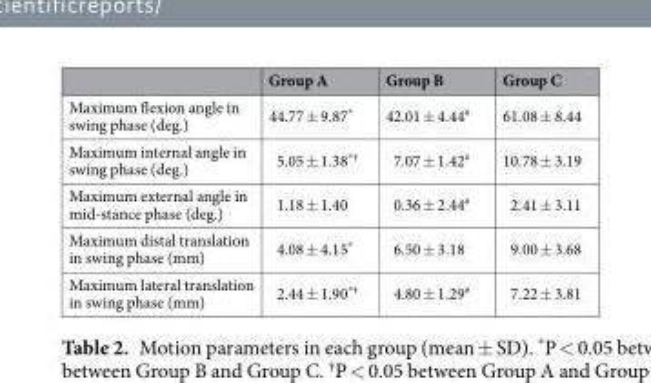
<table><thead><tr><td></td><td>Group A</td><td>Group B</td><td>Group C</td></tr></thead><tbody><tr><td>Maximum flexion angle in swing phase (deg.)</td><td>44.77 ± 9.87*</td><td>42.01 ± 4.44<sup>#</sup></td><td>61.08 ± 8.44</td></tr><tr><td>Maximum internal angle in swing phase (deg.)</td><td>5.05 ± 1.38<sup>*†</sup></td><td>7.07 ± 1.42<sup>#</sup></td><td>10.78 ± 3.19</td></tr><tr><td>Maximum external angle in mid-stance phase (deg.)</td><td>1.18 ± 1.40</td><td>0.36 ± 2.44<sup>#</sup></td><td>2.41 ± 3.11</td></tr><tr><td>Maximum distal translation in swing phase (mm)</td><td>4.08 ± 4.15*</td><td>6.50 ± 3.18</td><td>9.00 ± 3.68</td></tr><tr><td>Maximum lateral translation in swing phase (mm)</td><td>2.44 ± 1.90<sup>*†</sup></td><td>4.80 ± 1.29<sup>#</sup></td><td>7.22 ± 3.81</td></tr></tbody></table>